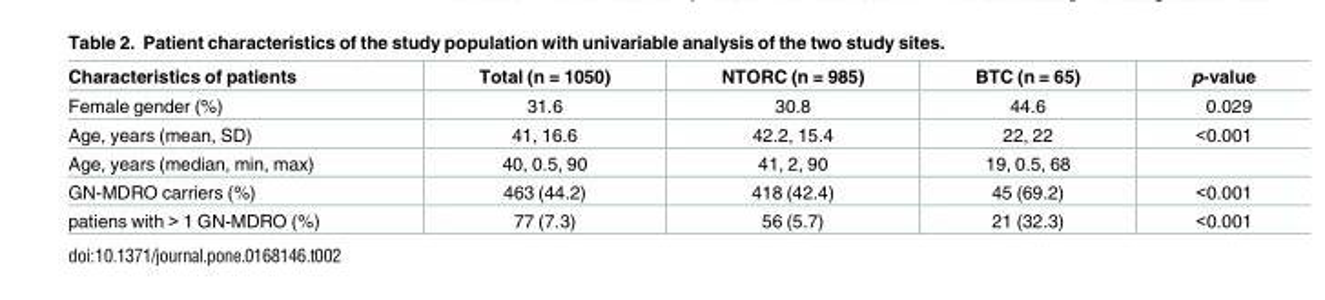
<table><thead><tr><td>Characteristics of patients</td><td>Total (n = 1050)</td><td>NTORC (n = 985)</td><td>BTC (n = 65)</td><td>p-value</td></tr></thead><tbody><tr><td>Female gender (%)</td><td>31.6</td><td>30.8</td><td>44.6</td><td>0.029</td></tr><tr><td>Age, years (mean, SD)</td><td>41, 16.6</td><td>42.2, 15.4</td><td>22, 22</td><td>&lt;0.001</td></tr><tr><td>Age, years (median, min, max)</td><td>40, 0.5, 90</td><td>41, 2, 90</td><td>19, 0.5, 68</td><td></td></tr><tr><td>GN-MDRO carriers (%)</td><td>463 (44.2)</td><td>418 (42.4)</td><td>45 (69.2)</td><td>&lt;0.001</td></tr><tr><td>patiens with &gt; 1 GN-MDRO (%)</td><td>77 (7.3)</td><td>56 (5.7)</td><td>21 (32.3)</td><td>&lt;0.001</td></tr></tbody></table>